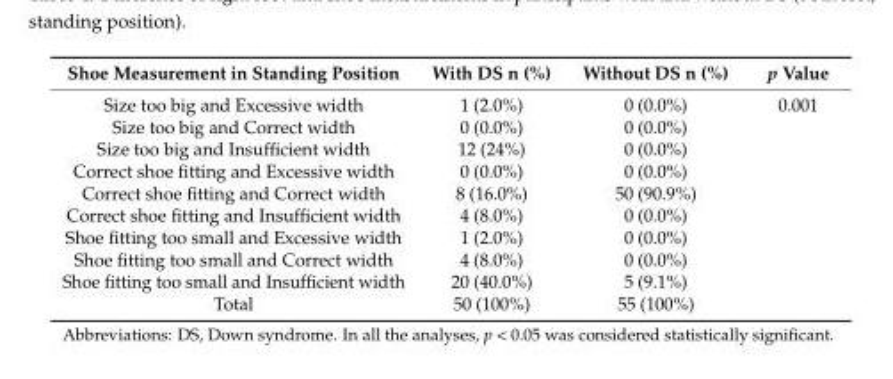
<table><thead><tr><td>Shoe Measurement in Standing Position</td><td>With DS n (%)</td><td>Without DS n (%)</td><td>p Value</td></tr></thead><tbody><tr><td>Size too big and Excessive width</td><td>1 (2.0%)</td><td>0 (0.0%)</td><td>0.001</td></tr><tr><td>Size too big and Correct width</td><td>0 (0.0%)</td><td>0 (0.0%)</td><td></td></tr><tr><td>Size too big and Insufficient width</td><td>12 (24%)</td><td>0 (0.0%)</td><td></td></tr><tr><td>Correct shoe fitting and Excessive width</td><td>0 (0.0%)</td><td>0 (0.0%)</td><td></td></tr><tr><td>Correct shoe fitting and Correct width</td><td>8 (16.0%)</td><td>50 (90.9%)</td><td></td></tr><tr><td>Correct shoe fitting and Insufficient width</td><td>4 (8.0%)</td><td>0 (0.0%)</td><td></td></tr><tr><td>Shoe fitting too small and Excessive width</td><td>1 (2.0%)</td><td>0 (0.0%)</td><td></td></tr><tr><td>Shoe fitting too small and Correct width</td><td>4 (8.0%)</td><td>0 (0.0%)</td><td></td></tr><tr><td>Shoe fitting too small and Insufficient width</td><td>20 (40.0%)</td><td>5 (9.1%)</td><td></td></tr><tr><td>Total</td><td>50 (100%)</td><td>55 (100%)</td><td></td></tr></tbody></table>